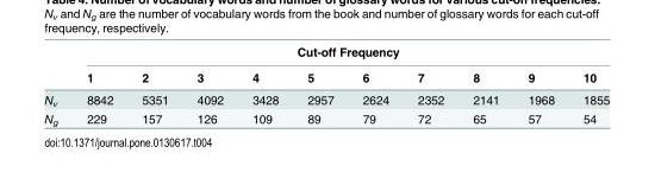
<table><thead><tr><td rowspan="2"></td><td colspan="10">Cut-off Frequency</td></tr><tr><td>1</td><td>2</td><td>3</td><td>4</td><td>5</td><td>6</td><td>7</td><td>8</td><td>9</td><td>10</td></tr></thead><tbody><tr><td>N<sub>v</sub></td><td>8842</td><td>5351</td><td>4092</td><td>3428</td><td>2957</td><td>2624</td><td>2352</td><td>2141</td><td>1968</td><td>1855</td></tr><tr><td>N<sub>g</sub></td><td>229</td><td>157</td><td>126</td><td>109</td><td>89</td><td>79</td><td>72</td><td>65</td><td>57</td><td>54</td></tr></tbody></table>